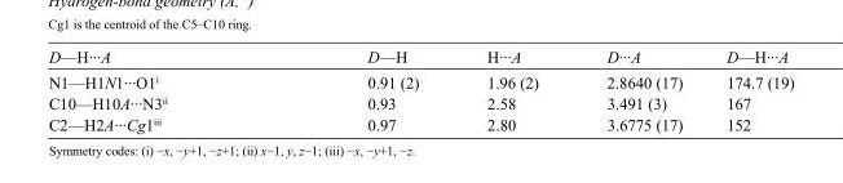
<table><tbody><tr><td>D—H···A</td><td>D—H</td><td>H···A</td><td>D···A</td><td>D—H···A</td></tr><tr><td>N1—H1N1···O1<sup>i</sup></td><td>0.91 (2)</td><td>1.96 (2)</td><td>2.8640 (17)</td><td>174.7 (19)</td></tr><tr><td>C10—H10A···N3<sup>ii</sup></td><td>0.93</td><td>2.58</td><td>3.491 (3)</td><td>167</td></tr><tr><td>C2—H2A···Cg1<sup>iii</sup></td><td>0.97</td><td>2.80</td><td>3.6775 (17)</td><td>152</td></tr></tbody></table>